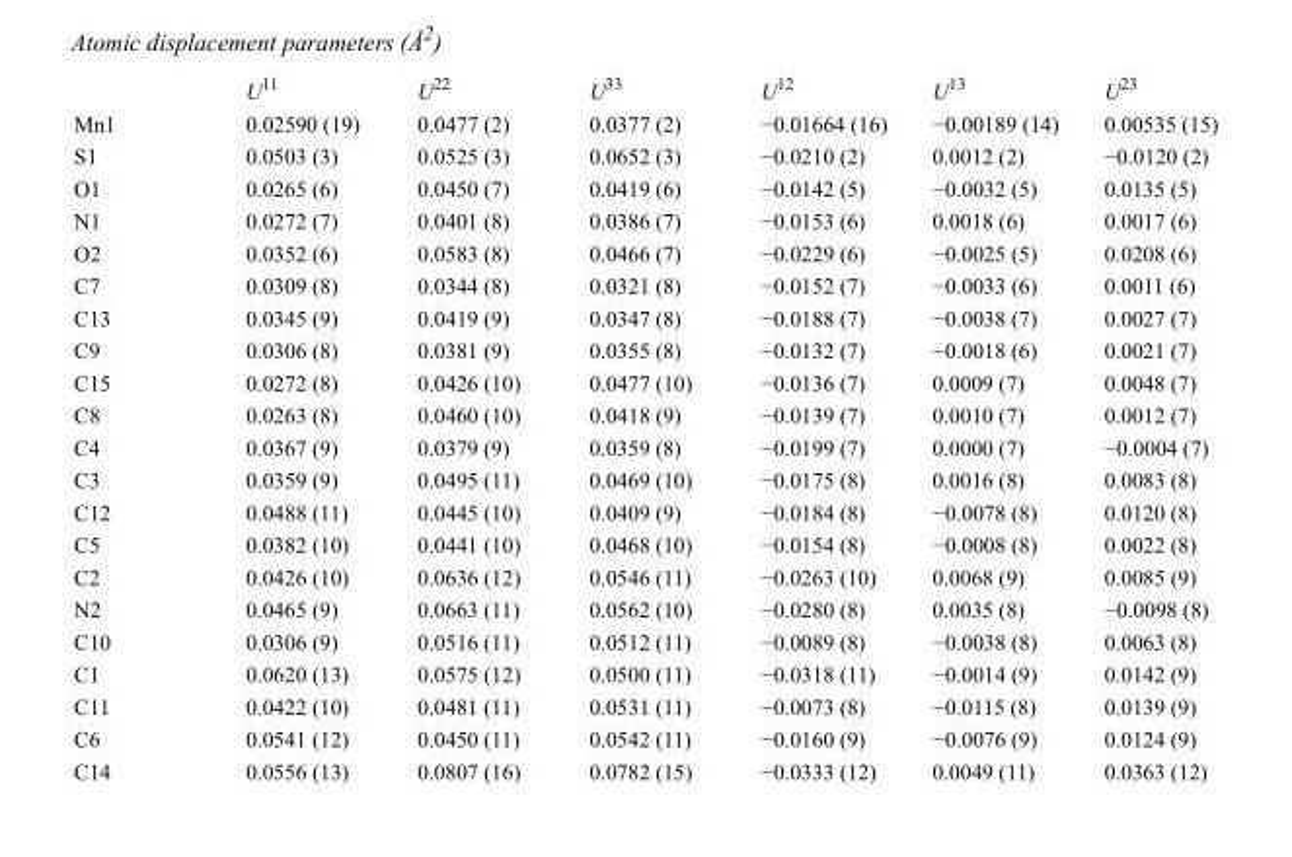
<table><thead><tr><td></td><td>U<sup>11</sup></td><td>U<sup>22</sup></td><td>U<sup>33</sup></td><td>U<sup>12</sup></td><td>U<sup>13</sup></td><td>U<sup>23</sup></td></tr></thead><tbody><tr><td>Mn1</td><td>0.02590 (19)</td><td>0.0477 (2)</td><td>0.0377 (2)</td><td>−0.01664 (16)</td><td>−0.00189 (14)</td><td>0.00535 (15)</td></tr><tr><td>S1</td><td>0.0503 (3)</td><td>0.0525 (3)</td><td>0.0652 (3)</td><td>−0.0210 (2)</td><td>0.0012 (2)</td><td>−0.0120 (2)</td></tr><tr><td>O1</td><td>0.0265 (6)</td><td>0.0450 (7)</td><td>0.0419 (6)</td><td>−0.0142 (5)</td><td>−0.0032 (5)</td><td>0.0135 (5)</td></tr><tr><td>N1</td><td>0.0272 (7)</td><td>0.0401 (8)</td><td>0.0386 (7)</td><td>−0.0153 (6)</td><td>0.0018 (6)</td><td>0.0017 (6)</td></tr><tr><td>O2</td><td>0.0352 (6)</td><td>0.0583 (8)</td><td>0.0466 (7)</td><td>−0.0229 (6)</td><td>−0.0025 (5)</td><td>0.0208 (6)</td></tr><tr><td>C7</td><td>0.0309 (8)</td><td>0.0344 (8)</td><td>0.0321 (8)</td><td>−0.0152 (7)</td><td>−0.0033 (6)</td><td>0.0011 (6)</td></tr><tr><td>C13</td><td>0.0345 (9)</td><td>0.0419 (9)</td><td>0.0347 (8)</td><td>−0.0188 (7)</td><td>−0.0038 (7)</td><td>0.0027 (7)</td></tr><tr><td>C9</td><td>0.0306 (8)</td><td>0.0381 (9)</td><td>0.0355 (8)</td><td>−0.0132 (7)</td><td>−0.0018 (6)</td><td>0.0021 (7)</td></tr><tr><td>C15</td><td>0.0272 (8)</td><td>0.0426 (10)</td><td>0.0477 (10)</td><td>−0.0136 (7)</td><td>0.0009 (7)</td><td>0.0048 (7)</td></tr><tr><td>C8</td><td>0.0263 (8)</td><td>0.0460 (10)</td><td>0.0418 (9)</td><td>−0.0139 (7)</td><td>0.0010 (7)</td><td>0.0012 (7)</td></tr><tr><td>C4</td><td>0.0367 (9)</td><td>0.0379 (9)</td><td>0.0359 (8)</td><td>−0.0199 (7)</td><td>0.0000 (7)</td><td>−0.0004 (7)</td></tr><tr><td>C3</td><td>0.0359 (9)</td><td>0.0495 (11)</td><td>0.0469 (10)</td><td>−0.0175 (8)</td><td>0.0016 (8)</td><td>0.0083 (8)</td></tr><tr><td>C12</td><td>0.0488 (11)</td><td>0.0445 (10)</td><td>0.0409 (9)</td><td>−0.0184 (8)</td><td>−0.0078 (8)</td><td>0.0120 (8)</td></tr><tr><td>C5</td><td>0.0382 (10)</td><td>0.0441 (10)</td><td>0.0468 (10)</td><td>−0.0154 (8)</td><td>−0.0008 (8)</td><td>0.0022 (8)</td></tr><tr><td>C2</td><td>0.0426 (10)</td><td>0.0636 (12)</td><td>0.0546 (11)</td><td>−0.0263 (10)</td><td>0.0068 (9)</td><td>0.0085 (9)</td></tr><tr><td>N2</td><td>0.0465 (9)</td><td>0.0663 (11)</td><td>0.0562 (10)</td><td>−0.0280 (8)</td><td>0.0035 (8)</td><td>−0.0098 (8)</td></tr><tr><td>C10</td><td>0.0306 (9)</td><td>0.0516 (11)</td><td>0.0512 (11)</td><td>−0.0089 (8)</td><td>−0.0038 (8)</td><td>0.0063 (8)</td></tr><tr><td>C1</td><td>0.0620 (13)</td><td>0.0575 (12)</td><td>0.0500 (11)</td><td>−0.0318 (11)</td><td>−0.0014 (9)</td><td>0.0142 (9)</td></tr><tr><td>C11</td><td>0.0422 (10)</td><td>0.0481 (11)</td><td>0.0531 (11)</td><td>−0.0073 (8)</td><td>−0.0115 (8)</td><td>0.0139 (9)</td></tr><tr><td>C6</td><td>0.0541 (12)</td><td>0.0450 (11)</td><td>0.0542 (11)</td><td>−0.0160 (9)</td><td>−0.0076 (9)</td><td>0.0124 (9)</td></tr><tr><td>C14</td><td>0.0556 (13)</td><td>0.0807 (16)</td><td>0.0782 (15)</td><td>−0.0333 (12)</td><td>0.0049 (11)</td><td>0.0363 (12)</td></tr></tbody></table>